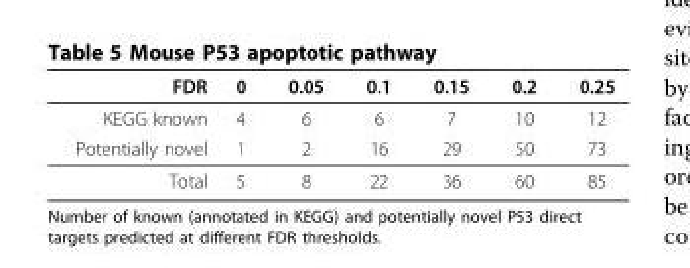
<table><thead><tr><td>FDR</td><td>0</td><td>0.05</td><td>0.1</td><td>0.15</td><td>0.2</td><td>0.25</td></tr></thead><tbody><tr><td>KEGG known</td><td>4</td><td>6</td><td>6</td><td>7</td><td>10</td><td>12</td></tr><tr><td>Potentially novel</td><td>1</td><td>2</td><td>16</td><td>29</td><td>50</td><td>73</td></tr><tr><td>Total</td><td>5</td><td>8</td><td>22</td><td>36</td><td>60</td><td>85</td></tr></tbody></table>